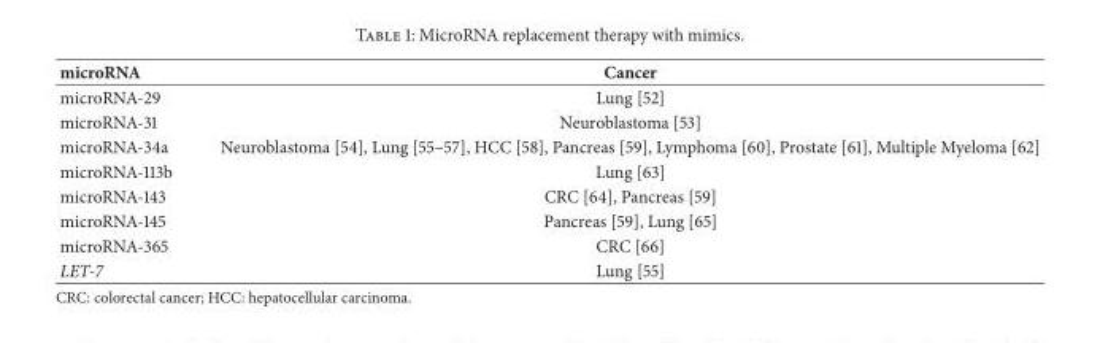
<table><thead><tr><td>microRNA</td><td>Cancer</td></tr></thead><tbody><tr><td>microRNA-29</td><td>Lung [52]</td></tr><tr><td>microRNA-31</td><td>Neuroblastoma [53]</td></tr><tr><td>microRNA-34a</td><td>Neuroblastoma [54], Lung [55–57], HCC [58], Pancreas [59], Lymphoma [60], Prostate [61], Multiple Myeloma [62]</td></tr><tr><td>microRNA-113b</td><td>Lung [63]</td></tr><tr><td>microRNA-143</td><td>CRC [64], Pancreas [59]</td></tr><tr><td>microRNA-145</td><td>Pancreas [59], Lung [65]</td></tr><tr><td>microRNA-365</td><td>CRC [66]</td></tr><tr><td>LET-7</td><td>Lung [55]</td></tr></tbody></table>